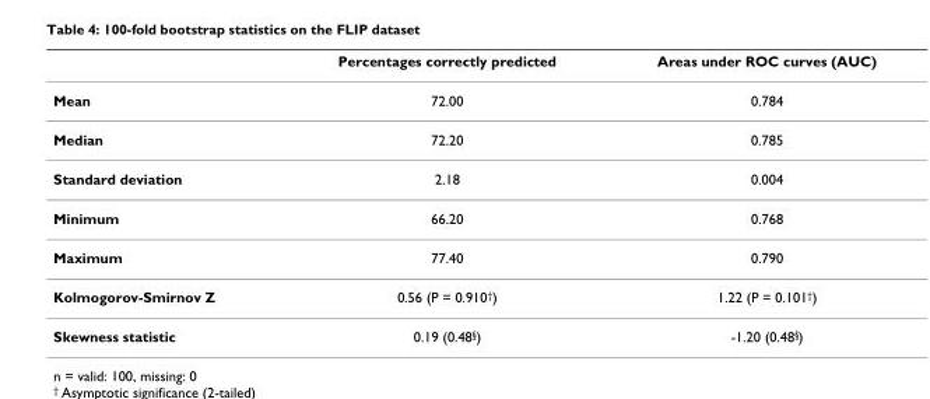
<table><thead><tr><td></td><td>Percentages correctly predicted</td><td>Areas under ROC curves (AUC)</td></tr></thead><tbody><tr><td>Mean</td><td>72.00</td><td>0.784</td></tr><tr><td>Median</td><td>72.20</td><td>0.785</td></tr><tr><td>Standard deviation</td><td>2.18</td><td>0.004</td></tr><tr><td>Minimum</td><td>66.20</td><td>0.768</td></tr><tr><td>Maximum</td><td>77.40</td><td>0.790</td></tr><tr><td>Kolmogorov-Smirnov Z</td><td>0.56 (P = 0.910<sup>†</sup>)</td><td>1.22 (P = 0.101<sup>†</sup>)</td></tr><tr><td>Skewness statistic</td><td>0.19 (0.48<sup>§</sup>)</td><td>-1.20 (0.48<sup>§</sup>)</td></tr></tbody></table>